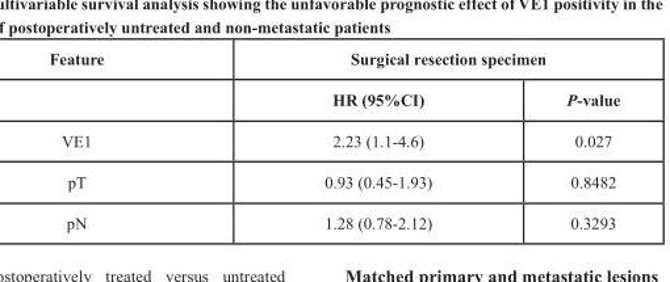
<table><thead><tr><td rowspan="2">Feature</td><td colspan="2">Surgical resection specimen</td></tr><tr><td>HR (95%CI)</td><td>P-value</td></tr></thead><tbody><tr><td>VE1</td><td>2.23 (1.1-4.6)</td><td>0.027</td></tr><tr><td>pT</td><td>0.93 (0.45-1.93)</td><td>0.8482</td></tr><tr><td>pN</td><td>1.28 (0.78-2.12)</td><td>0.3293</td></tr></tbody></table>